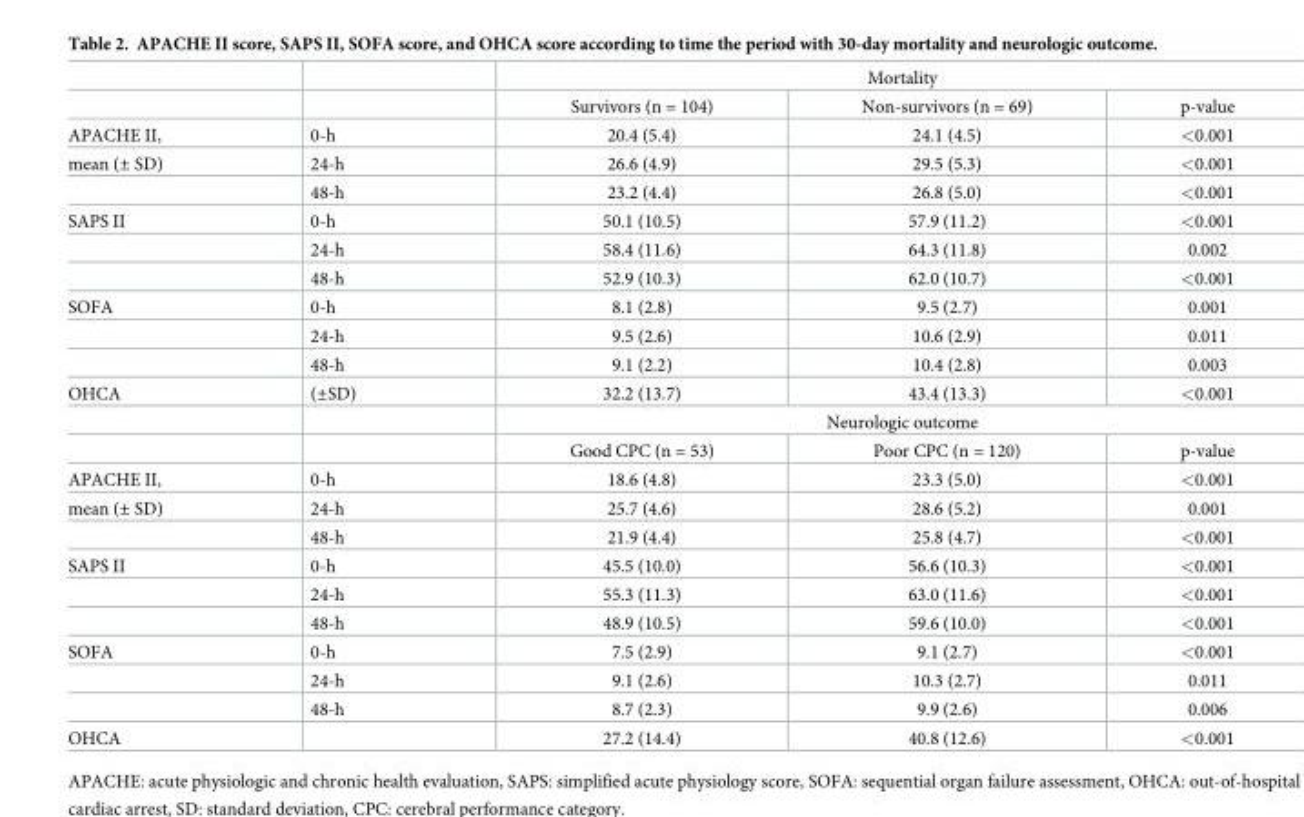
<table><thead><tr><td rowspan="2"></td><td rowspan="2"></td><td colspan="3">Mortality</td></tr><tr><td>Survivors (n = 104)</td><td>Non-survivors (n = 69)</td><td>p-value</td></tr></thead><tbody><tr><td>APACHE II,</td><td>0-h</td><td>20.4 (5.4)</td><td>24.1 (4.5)</td><td>&lt;0.001</td></tr><tr><td rowspan="2">mean (± SD)</td><td>24-h</td><td>26.6 (4.9)</td><td>29.5 (5.3)</td><td>&lt;0.001</td></tr><tr><td>48-h</td><td>23.2 (4.4)</td><td>26.8 (5.0)</td><td>&lt;0.001</td></tr><tr><td rowspan="3">SAPS II</td><td>0-h</td><td>50.1 (10.5)</td><td>57.9 (11.2)</td><td>&lt;0.001</td></tr><tr><td>24-h</td><td>58.4 (11.6)</td><td>64.3 (11.8)</td><td>0.002</td></tr><tr><td>48-h</td><td>52.9 (10.3)</td><td>62.0 (10.7)</td><td>&lt;0.001</td></tr><tr><td rowspan="3">SOFA</td><td>0-h</td><td>8.1 (2.8)</td><td>9.5 (2.7)</td><td>0.001</td></tr><tr><td>24-h</td><td>9.5 (2.6)</td><td>10.6 (2.9)</td><td>0.011</td></tr><tr><td>48-h</td><td>9.1 (2.2)</td><td>10.4 (2.8)</td><td>0.003</td></tr><tr><td rowspan="3">OHCA</td><td>(±SD)</td><td>32.2 (13.7)</td><td>43.4 (13.3)</td><td>&lt;0.001</td></tr><tr><td></td><td colspan="3">Neurologic outcome</td></tr><tr><td></td><td>Good CPC (n = 53)</td><td>Poor CPC (n = 120)</td><td>p-value</td></tr><tr><td>APACHE II,</td><td>0-h</td><td>18.6 (4.8)</td><td>23.3 (5.0)</td><td>&lt;0.001</td></tr><tr><td rowspan="2">mean (± SD)</td><td>24-h</td><td>25.7 (4.6)</td><td>28.6 (5.2)</td><td>0.001</td></tr><tr><td>48-h</td><td>21.9 (4.4)</td><td>25.8 (4.7)</td><td>&lt;0.001</td></tr><tr><td rowspan="3">SAPS II</td><td>0-h</td><td>45.5 (10.0)</td><td>56.6 (10.3)</td><td>&lt;0.001</td></tr><tr><td>24-h</td><td>55.3 (11.3)</td><td>63.0 (11.6)</td><td>&lt;0.001</td></tr><tr><td>48-h</td><td>48.9 (10.5)</td><td>59.6 (10.0)</td><td>&lt;0.001</td></tr><tr><td rowspan="3">SOFA</td><td>0-h</td><td>7.5 (2.9)</td><td>9.1 (2.7)</td><td>&lt;0.001</td></tr><tr><td>24-h</td><td>9.1 (2.6)</td><td>10.3 (2.7)</td><td>0.011</td></tr><tr><td>48-h</td><td>8.7 (2.3)</td><td>9.9 (2.6)</td><td>0.006</td></tr><tr><td>OHCA</td><td></td><td>27.2 (14.4)</td><td>40.8 (12.6)</td><td>&lt;0.001</td></tr></tbody></table>